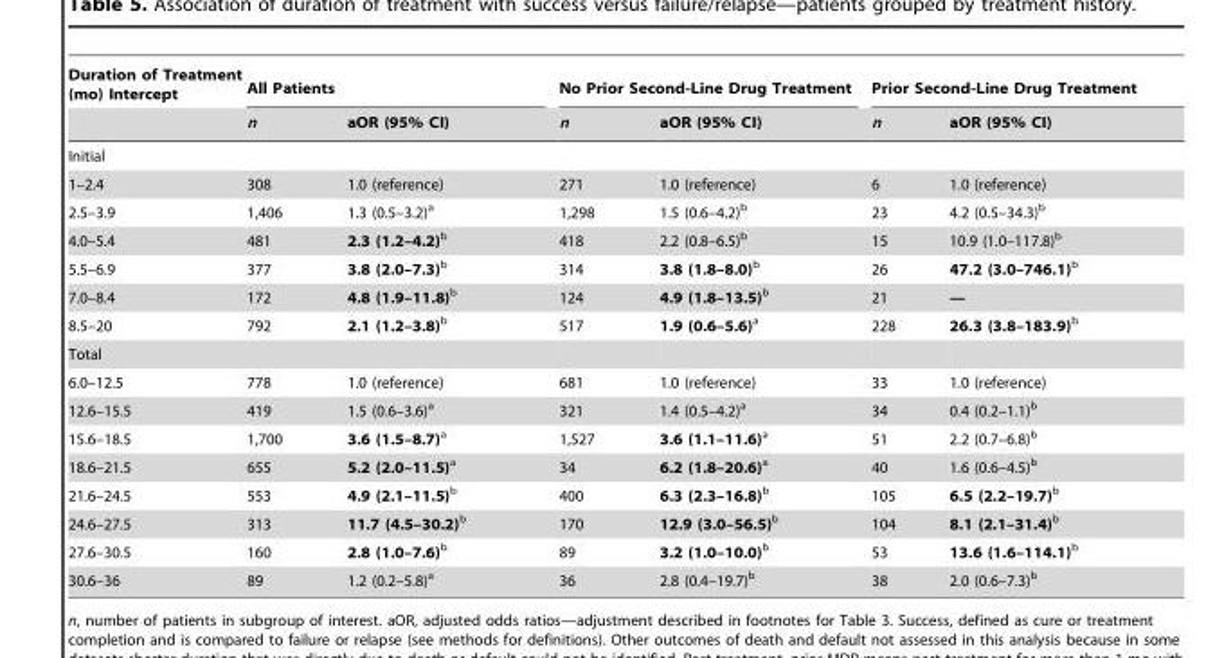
<table><thead><tr><td rowspan="2">Duration of Treatment (mo) Intercept</td><td colspan="2">All Patients</td><td colspan="2">No Prior Second-Line Drug Treatment</td><td colspan="2">Prior Second-Line Drug Treatment</td></tr><tr><td>n</td><td>aOR (95% CI)</td><td>n</td><td>aOR (95% CI)</td><td>n</td><td>aOR (95% CI)</td></tr></thead><tbody><tr><td colspan="7">Initial</td></tr><tr><td>1–2.4</td><td>308</td><td>1.0 (reference)</td><td>271</td><td>1.0 (reference)</td><td>6</td><td>1.0 (reference)</td></tr><tr><td>2.5–3.9</td><td>1,406</td><td>1.3 (0.5–3.2)<sup>a</sup></td><td>1,298</td><td>1.5 (0.6–4.2)<sup>b</sup></td><td>23</td><td>4.2 (0.5–34.3)<sup>b</sup></td></tr><tr><td>4.0–5.4</td><td>481</td><td>2.3 (1.2–4.2)b</td><td>418</td><td>2.2 (0.8–6.5)<sup>b</sup></td><td>15</td><td>10.9 (1.0–117.8)<sup>b</sup></td></tr><tr><td>5.5–6.9</td><td>377</td><td>3.8 (2.0–7.3)b</td><td>314</td><td>3.8 (1.8–8.0)b</td><td>26</td><td>47.2 (3.0–746.1)b</td></tr><tr><td>7.0–8.4</td><td>172</td><td>4.8 (1.9–11.8)b</td><td>124</td><td>4.9 (1.8–13.5)b</td><td>21</td><td>—</td></tr><tr><td>8.5–20</td><td>792</td><td>2.1 (1.2–3.8)b</td><td>517</td><td>1.9 (0.6–5.6)a</td><td>228</td><td>26.3 (3.8–183.9)b</td></tr><tr><td colspan="7">Total</td></tr><tr><td>6.0–12.5</td><td>778</td><td>1.0 (reference)</td><td>681</td><td>1.0 (reference)</td><td>33</td><td>1.0 (reference)</td></tr><tr><td>12.6–15.5</td><td>419</td><td>1.5 (0.6–3.6)<sup>a</sup></td><td>321</td><td>1.4 (0.5–4.2)<sup>a</sup></td><td>34</td><td>0.4 (0.2–1.1)<sup>b</sup></td></tr><tr><td>15.6–18.5</td><td>1,700</td><td>3.6 (1.5–8.7)a</td><td>1,527</td><td>3.6 (1.1–11.6)a</td><td>51</td><td>2.2 (0.7–6.8)<sup>b</sup></td></tr><tr><td>18.6–21.5</td><td>655</td><td>5.2 (2.0–11.5)a</td><td>34</td><td>6.2 (1.8–20.6)a</td><td>40</td><td>1.6 (0.6–4.5)<sup>b</sup></td></tr><tr><td>21.6–24.5</td><td>553</td><td>4.9 (2.1–11.5)b</td><td>400</td><td>6.3 (2.3–16.8)b</td><td>105</td><td>6.5 (2.2–19.7)b</td></tr><tr><td>24.6–27.5</td><td>313</td><td>11.7 (4.5–30.2)b</td><td>170</td><td>12.9 (3.0–56.5)b</td><td>104</td><td>8.1 (2.1–31.4)b</td></tr><tr><td>27.6–30.5</td><td>160</td><td>2.8 (1.0–7.6)b</td><td>89</td><td>3.2 (1.0–10.0)b</td><td>53</td><td>13.6 (1.6–114.1)b</td></tr><tr><td>30.6–36</td><td>89</td><td>1.2 (0.2–5.8)<sup>a</sup></td><td>36</td><td>2.8 (0.4–19.7)<sup>b</sup></td><td>38</td><td>2.0 (0.6–7.3)<sup>b</sup></td></tr></tbody></table>